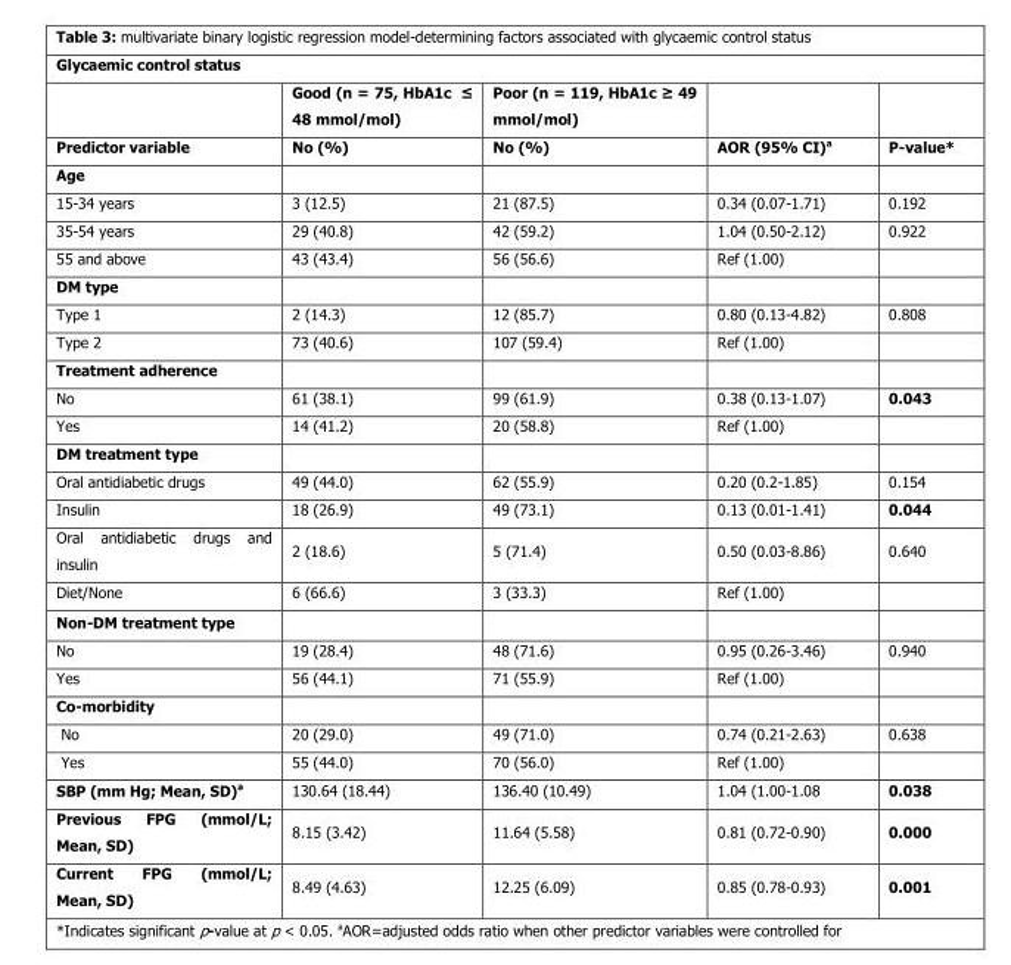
<table><thead><tr><td colspan="5">Glycaemic control status</td></tr><tr><td rowspan="2">Predictor variable</td><td rowspan="2">Good (n = 75, HbA1c ≤ 48 mmol/mol) No (%)</td><td rowspan="2">Poor (n = 119, HbA1c ≥ 49 mmol/mol) No (%)</td><td rowspan="2">AOR (95% CI)<sup>a</sup></td><td rowspan="2">P-value*</td></tr><tr></tr></thead><tbody><tr><td colspan="5">Age</td></tr><tr><td>15-34 years</td><td>3 (12.5)</td><td>21 (87.5)</td><td>0.34 (0.07-1.71)</td><td>0.192</td></tr><tr><td>35-54 years</td><td>29 (40.8)</td><td>42 (59.2)</td><td>1.04 (0.50-2.12)</td><td>0.922</td></tr><tr><td>55 and above</td><td>43 (43.4)</td><td>56 (56.6)</td><td>Ref (1.00)</td><td></td></tr><tr><td colspan="5">DM type</td></tr><tr><td>Type 1</td><td>2 (14.3)</td><td>12 (85.7)</td><td>0.80 (0.13-4.82)</td><td>0.808</td></tr><tr><td>Type 2</td><td>73 (40.6)</td><td>107 (59.4)</td><td>Ref (1.00)</td><td></td></tr><tr><td colspan="5">Treatment adherence</td></tr><tr><td>No</td><td>61 (38.1)</td><td>99 (61.9)</td><td>0.38 (0.13-1.07)</td><td>0.043</td></tr><tr><td>Yes</td><td>14 (41.2)</td><td>20 (58.8)</td><td>Ref (1.00)</td><td></td></tr><tr><td colspan="5">DM treatment type</td></tr><tr><td>Oral antidiabetic drugs</td><td>49 (44.0)</td><td>62 (55.9)</td><td>0.20 (0.2-1.85)</td><td>0.154</td></tr><tr><td>Insulin</td><td>18 (26.9)</td><td>49 (73.1)</td><td>0.13 (0.01-1.41)</td><td>0.044</td></tr><tr><td>Oral antidiabetic drugs and insulin</td><td>2 (18.6)</td><td>5 (71.4)</td><td>0.50 (0.03-8.86)</td><td>0.640</td></tr><tr><td>Diet/None</td><td>6 (66.6)</td><td>3 (33.3)</td><td>Ref (1.00)</td><td></td></tr><tr><td colspan="5">Non-DM treatment type</td></tr><tr><td>No</td><td>19 (28.4)</td><td>48 (71.6)</td><td>0.95 (0.26-3.46)</td><td>0.940</td></tr><tr><td>Yes</td><td>56 (44.1)</td><td>71 (55.9)</td><td>Ref (1.00)</td><td></td></tr><tr><td colspan="5">Co-morbidity</td></tr><tr><td>No</td><td>20 (29.0)</td><td>49 (71.0)</td><td>0.74 (0.21-2.63)</td><td>0.638</td></tr><tr><td>Yes</td><td>55 (44.0)</td><td>70 (56.0)</td><td>Ref (1.00)</td><td></td></tr><tr><td>SBP (mm Hg; Mean, SD)<sup>a</sup></td><td>130.64 (18.44)</td><td>136.40 (10.49)</td><td>1.04 (1.00-1.08</td><td>0.038</td></tr><tr><td>Previous FPG (mmol/L; Mean, SD)</td><td>8.15 (3.42)</td><td>11.64 (5.58)</td><td>0.81 (0.72-0.90)</td><td>0.000</td></tr><tr><td>Current FPG (mmol/L; Mean, SD)</td><td>8.49 (4.63)</td><td>12.25 (6.09)</td><td>0.85 (0.78-0.93)</td><td>0.001</td></tr></tbody></table>